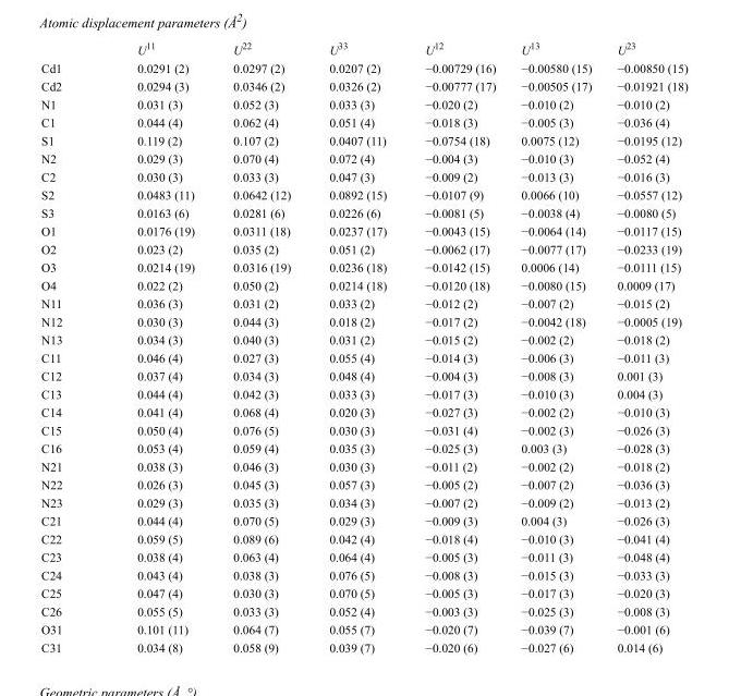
<table><thead><tr><td></td><td>U<sup>11</sup></td><td>U<sup>22</sup></td><td>U<sup>33</sup></td><td>U<sup>12</sup></td><td>U<sup>13</sup></td><td>U<sup>23</sup></td></tr></thead><tbody><tr><td>Cd1</td><td>0.0291 (2)</td><td>0.0297 (2)</td><td>0.0207 (2)</td><td>−0.00729 (16)</td><td>−0.00580 (15)</td><td>−0.00850 (15)</td></tr><tr><td>Cd2</td><td>0.0294 (3)</td><td>0.0346 (2)</td><td>0.0326 (2)</td><td>−0.00777 (17)</td><td>−0.00505 (17)</td><td>−0.01921 (18)</td></tr><tr><td>N1</td><td>0.031 (3)</td><td>0.052 (3)</td><td>0.033 (3)</td><td>−0.020 (2)</td><td>−0.010 (2)</td><td>−0.010 (2)</td></tr><tr><td>C1</td><td>0.044 (4)</td><td>0.062 (4)</td><td>0.051 (4)</td><td>−0.018 (3)</td><td>−0.005 (3)</td><td>−0.036 (4)</td></tr><tr><td>S1</td><td>0.119 (2)</td><td>0.107 (2)</td><td>0.0407 (11)</td><td>−0.0754 (18)</td><td>0.0075 (12)</td><td>−0.0195 (12)</td></tr><tr><td>N2</td><td>0.029 (3)</td><td>0.070 (4)</td><td>0.072 (4)</td><td>−0.004 (3)</td><td>−0.010 (3)</td><td>−0.052 (4)</td></tr><tr><td>C2</td><td>0.030 (3)</td><td>0.033 (3)</td><td>0.047 (3)</td><td>−0.009 (2)</td><td>−0.013 (3)</td><td>−0.016 (3)</td></tr><tr><td>S2</td><td>0.0483 (11)</td><td>0.0642 (12)</td><td>0.0892 (15)</td><td>−0.0107 (9)</td><td>0.0066 (10)</td><td>−0.0557 (12)</td></tr><tr><td>S3</td><td>0.0163 (6)</td><td>0.0281 (6)</td><td>0.0226 (6)</td><td>−0.0081 (5)</td><td>−0.0038 (4)</td><td>−0.0080 (5)</td></tr><tr><td>O1</td><td>0.0176 (19)</td><td>0.0311 (18)</td><td>0.0237 (17)</td><td>−0.0043 (15)</td><td>−0.0064 (14)</td><td>−0.0117 (15)</td></tr><tr><td>O2</td><td>0.023 (2)</td><td>0.035 (2)</td><td>0.051 (2)</td><td>−0.0062 (17)</td><td>−0.0077 (17)</td><td>−0.0233 (19)</td></tr><tr><td>O3</td><td>0.0214 (19)</td><td>0.0316 (19)</td><td>0.0236 (18)</td><td>−0.0142 (15)</td><td>0.0006 (14)</td><td>−0.0111 (15)</td></tr><tr><td>O4</td><td>0.022 (2)</td><td>0.050 (2)</td><td>0.0214 (18)</td><td>−0.0120 (18)</td><td>−0.0080 (15)</td><td>0.0009 (17)</td></tr><tr><td>N11</td><td>0.036 (3)</td><td>0.031 (2)</td><td>0.033 (2)</td><td>−0.012 (2)</td><td>−0.007 (2)</td><td>−0.015 (2)</td></tr><tr><td>N12</td><td>0.030 (3)</td><td>0.044 (3)</td><td>0.018 (2)</td><td>−0.017 (2)</td><td>−0.0042 (18)</td><td>−0.0005 (19)</td></tr><tr><td>N13</td><td>0.034 (3)</td><td>0.040 (3)</td><td>0.031 (2)</td><td>−0.015 (2)</td><td>−0.002 (2)</td><td>−0.018 (2)</td></tr><tr><td>C11</td><td>0.046 (4)</td><td>0.027 (3)</td><td>0.055 (4)</td><td>−0.014 (3)</td><td>−0.006 (3)</td><td>−0.011 (3)</td></tr><tr><td>C12</td><td>0.037 (4)</td><td>0.034 (3)</td><td>0.048 (4)</td><td>−0.004 (3)</td><td>−0.008 (3)</td><td>0.001 (3)</td></tr><tr><td>C13</td><td>0.044 (4)</td><td>0.042 (3)</td><td>0.033 (3)</td><td>−0.017 (3)</td><td>−0.010 (3)</td><td>0.004 (3)</td></tr><tr><td>C14</td><td>0.041 (4)</td><td>0.068 (4)</td><td>0.020 (3)</td><td>−0.027 (3)</td><td>−0.002 (2)</td><td>−0.010 (3)</td></tr><tr><td>C15</td><td>0.050 (4)</td><td>0.076 (5)</td><td>0.030 (3)</td><td>−0.031 (4)</td><td>−0.002 (3)</td><td>−0.026 (3)</td></tr><tr><td>C16</td><td>0.053 (4)</td><td>0.059 (4)</td><td>0.035 (3)</td><td>−0.025 (3)</td><td>0.003 (3)</td><td>−0.028 (3)</td></tr><tr><td>N21</td><td>0.038 (3)</td><td>0.046 (3)</td><td>0.030 (3)</td><td>−0.011 (2)</td><td>−0.002 (2)</td><td>−0.018 (2)</td></tr><tr><td>N22</td><td>0.026 (3)</td><td>0.045 (3)</td><td>0.057 (3)</td><td>−0.005 (2)</td><td>−0.007 (2)</td><td>−0.036 (3)</td></tr><tr><td>N23</td><td>0.029 (3)</td><td>0.035 (3)</td><td>0.034 (3)</td><td>−0.007 (2)</td><td>−0.009 (2)</td><td>−0.013 (2)</td></tr><tr><td>C21</td><td>0.044 (4)</td><td>0.070 (5)</td><td>0.029 (3)</td><td>−0.009 (3)</td><td>0.004 (3)</td><td>−0.026 (3)</td></tr><tr><td>C22</td><td>0.059 (5)</td><td>0.089 (6)</td><td>0.042 (4)</td><td>−0.018 (4)</td><td>−0.010 (3)</td><td>−0.041 (4)</td></tr><tr><td>C23</td><td>0.038 (4)</td><td>0.063 (4)</td><td>0.064 (4)</td><td>−0.005 (3)</td><td>−0.011 (3)</td><td>−0.048 (4)</td></tr><tr><td>C24</td><td>0.043 (4)</td><td>0.038 (3)</td><td>0.076 (5)</td><td>−0.008 (3)</td><td>−0.015 (3)</td><td>−0.033 (3)</td></tr><tr><td>C25</td><td>0.047 (4)</td><td>0.030 (3)</td><td>0.070 (5)</td><td>−0.005 (3)</td><td>−0.017 (3)</td><td>−0.020 (3)</td></tr><tr><td>C26</td><td>0.055 (5)</td><td>0.033 (3)</td><td>0.052 (4)</td><td>−0.003 (3)</td><td>−0.025 (3)</td><td>−0.008 (3)</td></tr><tr><td>O31</td><td>0.101 (11)</td><td>0.064 (7)</td><td>0.055 (7)</td><td>−0.020 (7)</td><td>−0.039 (7)</td><td>−0.001 (6)</td></tr><tr><td>C31</td><td>0.034 (8)</td><td>0.058 (9)</td><td>0.039 (7)</td><td>−0.020 (6)</td><td>−0.027 (6)</td><td>0.014 (6)</td></tr></tbody></table>